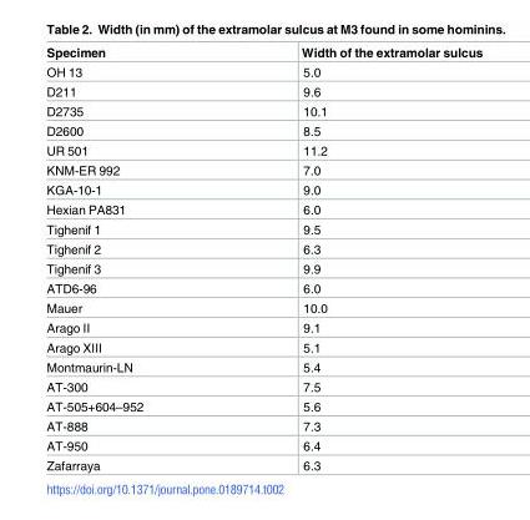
<table><thead><tr><td>Specimen</td><td>Width of the extramolar sulcus</td></tr></thead><tbody><tr><td>OH 13</td><td>5.0</td></tr><tr><td>D211</td><td>9.6</td></tr><tr><td>D2735</td><td>10.1</td></tr><tr><td>D2600</td><td>8.5</td></tr><tr><td>UR 501</td><td>11.2</td></tr><tr><td>KNM-ER 992</td><td>7.0</td></tr><tr><td>KGA-10-1</td><td>9.0</td></tr><tr><td>Hexian PA831</td><td>6.0</td></tr><tr><td>Tighenif 1</td><td>9.5</td></tr><tr><td>Tighenif 2</td><td>6.3</td></tr><tr><td>Tighenif 3</td><td>9.9</td></tr><tr><td>ATD6-96</td><td>6.0</td></tr><tr><td>Mauer</td><td>10.0</td></tr><tr><td>Arago II</td><td>9.1</td></tr><tr><td>Arago XIII</td><td>5.1</td></tr><tr><td>Montmaurin-LN</td><td>5.4</td></tr><tr><td>AT-300</td><td>7.5</td></tr><tr><td>AT-505+604–952</td><td>5.6</td></tr><tr><td>AT-888</td><td>7.3</td></tr><tr><td>AT-950</td><td>6.4</td></tr><tr><td>Zafarraya</td><td>6.3</td></tr></tbody></table>